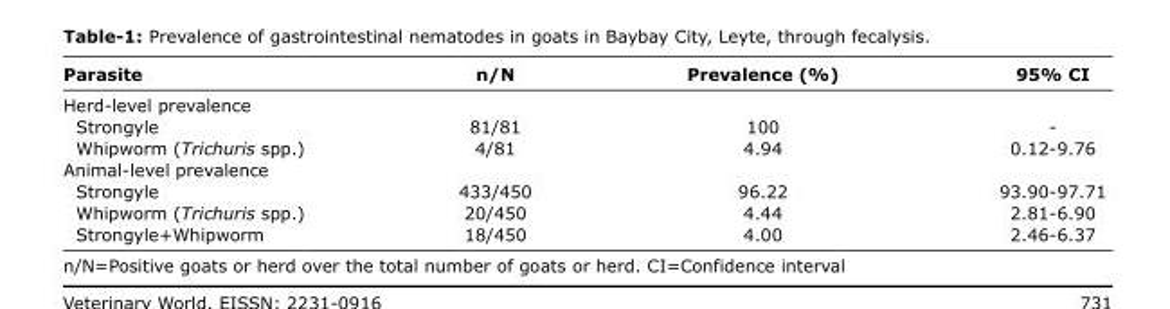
<table><thead><tr><td>Parasite</td><td>n/N</td><td>Prevalence (%)</td><td>95% CI</td></tr></thead><tbody><tr><td colspan="4">Herd-level prevalence</td></tr><tr><td>Strongyle</td><td>81/81</td><td>100</td><td>-</td></tr><tr><td>Whipworm (Trichuris spp.)</td><td>4/81</td><td>4.94</td><td>0.12-9.76</td></tr><tr><td colspan="4">Animal-level prevalence</td></tr><tr><td>Strongyle</td><td>433/450</td><td>96.22</td><td>93.90-97.71</td></tr><tr><td>Whipworm (Trichuris spp.)</td><td>20/450</td><td>4.44</td><td>2.81-6.90</td></tr><tr><td>Strongyle+Whipworm</td><td>18/450</td><td>4.00</td><td>2.46-6.37</td></tr></tbody></table>